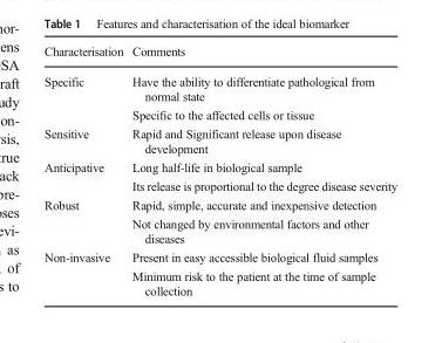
<table><thead><tr><td>Characterisation</td><td>Comments</td></tr></thead><tbody><tr><td rowspan="2">Specific</td><td>Have the ability to differentiate pathological from normal state</td></tr><tr><td>Specific to the affected cells or tissue</td></tr><tr><td>Sensitive</td><td>Rapid and Significant release upon disease development</td></tr><tr><td rowspan="2">Anticipative</td><td>Long half-life in biological sample</td></tr><tr><td>Its release is proportional to the degree disease severity</td></tr><tr><td rowspan="2">Robust</td><td>Rapid, simple, accurate and inexpensive detection</td></tr><tr><td>Not changed by environmental factors and other diseases</td></tr><tr><td rowspan="2">Non-invasive</td><td>Present in easy accessible biological fluid samples</td></tr><tr><td>Minimum risk to the patient at the time of sample collection</td></tr></tbody></table>